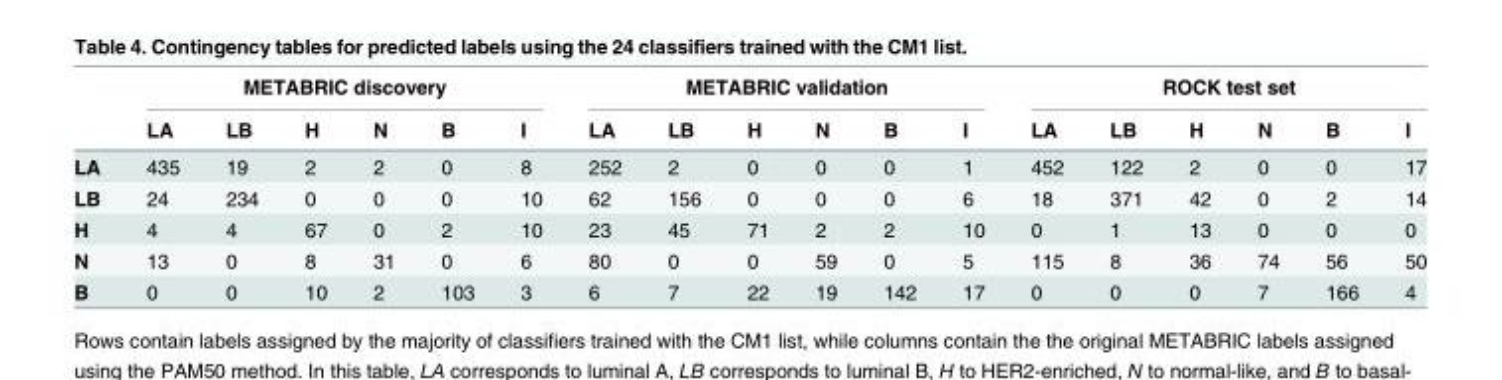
<table><thead><tr><td rowspan="2"></td><td colspan="6">METABRIC discovery</td><td colspan="6">METABRIC validation</td><td colspan="6">ROCK test set</td></tr><tr><td>LA</td><td>LB</td><td>H</td><td>N</td><td>B</td><td>I</td><td>LA</td><td>LB</td><td>H</td><td>N</td><td>B</td><td>I</td><td>LA</td><td>LB</td><td>H</td><td>N</td><td>B</td><td>I</td></tr></thead><tbody><tr><td>LA</td><td>435</td><td>19</td><td>2</td><td>2</td><td>0</td><td>8</td><td>252</td><td>2</td><td>0</td><td>0</td><td>0</td><td>1</td><td>452</td><td>122</td><td>2</td><td>0</td><td>0</td><td>17</td></tr><tr><td>LB</td><td>24</td><td>234</td><td>0</td><td>0</td><td>0</td><td>10</td><td>62</td><td>156</td><td>0</td><td>0</td><td>0</td><td>6</td><td>18</td><td>371</td><td>42</td><td>0</td><td>2</td><td>14</td></tr><tr><td>H</td><td>4</td><td>4</td><td>67</td><td>0</td><td>2</td><td>10</td><td>23</td><td>45</td><td>71</td><td>2</td><td>2</td><td>10</td><td>0</td><td>1</td><td>13</td><td>0</td><td>0</td><td>0</td></tr><tr><td>N</td><td>13</td><td>0</td><td>8</td><td>31</td><td>0</td><td>6</td><td>80</td><td>0</td><td>0</td><td>59</td><td>0</td><td>5</td><td>115</td><td>8</td><td>36</td><td>74</td><td>56</td><td>50</td></tr><tr><td>B</td><td>0</td><td>0</td><td>10</td><td>2</td><td>103</td><td>3</td><td>6</td><td>7</td><td>22</td><td>19</td><td>142</td><td>17</td><td>0</td><td>0</td><td>0</td><td>7</td><td>166</td><td>4</td></tr></tbody></table>